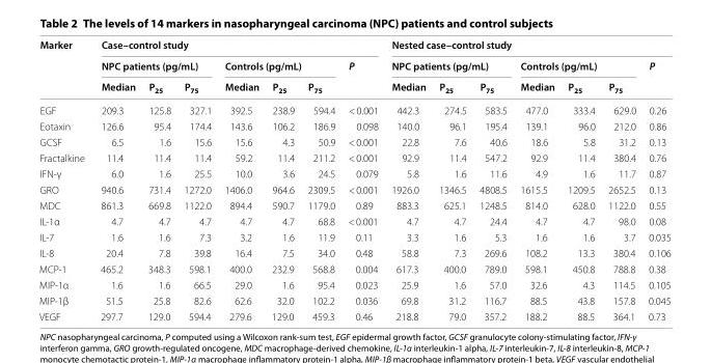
<table><thead><tr><td rowspan="3">Marker</td><td colspan="7">Case–control study</td><td colspan="7">Nested case–control study</td></tr><tr><td colspan="3">NPC patients (pg/mL)</td><td colspan="3">Controls (pg/mL)</td><td rowspan="2">P</td><td colspan="3">NPC patients (pg/mL)</td><td colspan="3">Controls (pg/mL)</td><td rowspan="2">P</td></tr><tr><td>Median</td><td>P<sub>25</sub></td><td>P<sub>75</sub></td><td>Median</td><td>P<sub>25</sub></td><td>P<sub>75</sub></td><td>Median</td><td>P<sub>25</sub></td><td>P<sub>75</sub></td><td>Median</td><td>P<sub>25</sub></td><td>P<sub>75</sub></td></tr></thead><tbody><tr><td>EGF</td><td>209.3</td><td>125.8</td><td>327.1</td><td>392.5</td><td>238.9</td><td>594.4</td><td>&lt; 0.001</td><td>442.3</td><td>274.5</td><td>583.5</td><td>477.0</td><td>333.4</td><td>629.0</td><td>0.26</td></tr><tr><td>Eotaxin</td><td>126.6</td><td>95.4</td><td>174.4</td><td>143.6</td><td>106.2</td><td>186.9</td><td>0.098</td><td>140.0</td><td>96.1</td><td>195.4</td><td>139.1</td><td>96.0</td><td>212.0</td><td>0.86</td></tr><tr><td>GCSF</td><td>6.5</td><td>1.6</td><td>15.6</td><td>15.6</td><td>4.3</td><td>50.9</td><td>&lt; 0.001</td><td>22.8</td><td>7.6</td><td>40.6</td><td>18.6</td><td>5.8</td><td>31.2</td><td>0.13</td></tr><tr><td>Fractalkine</td><td>11.4</td><td>11.4</td><td>11.4</td><td>59.2</td><td>11.4</td><td>211.2</td><td>&lt; 0.001</td><td>92.9</td><td>11.4</td><td>547.2</td><td>92.9</td><td>11.4</td><td>380.4</td><td>0.76</td></tr><tr><td>IFN‑γ</td><td>6.0</td><td>1.6</td><td>25.5</td><td>10.0</td><td>3.6</td><td>24.5</td><td>0.079</td><td>5.8</td><td>1.6</td><td>11.6</td><td>4.9</td><td>1.6</td><td>11.7</td><td>0.87</td></tr><tr><td>GRO</td><td>940.6</td><td>731.4</td><td>1272.0</td><td>1406.0</td><td>964.6</td><td>2309.5</td><td>&lt; 0.001</td><td>1926.0</td><td>1346.5</td><td>4808.5</td><td>1615.5</td><td>1209.5</td><td>2652.5</td><td>0.13</td></tr><tr><td>MDC</td><td>861.3</td><td>669.8</td><td>1122.0</td><td>894.4</td><td>590.7</td><td>1179.0</td><td>0.89</td><td>883.3</td><td>625.1</td><td>1248.5</td><td>814.0</td><td>628.0</td><td>1122.0</td><td>0.55</td></tr><tr><td>IL‑1α</td><td>4.7</td><td>4.7</td><td>4.7</td><td>4.7</td><td>4.7</td><td>68.8</td><td>&lt; 0.001</td><td>4.7</td><td>4.7</td><td>24.4</td><td>4.7</td><td>4.7</td><td>98.0</td><td>0.08</td></tr><tr><td>IL‑7</td><td>1.6</td><td>1.6</td><td>7.3</td><td>3.2</td><td>1.6</td><td>11.9</td><td>0.11</td><td>3.3</td><td>1.6</td><td>5.3</td><td>1.6</td><td>1.6</td><td>3.7</td><td>0.035</td></tr><tr><td>IL‑8</td><td>20.4</td><td>7.8</td><td>39.8</td><td>16.4</td><td>7.5</td><td>34.0</td><td>0.48</td><td>58.8</td><td>7.3</td><td>269.6</td><td>108.2</td><td>13.3</td><td>380.4</td><td>0.106</td></tr><tr><td>MCP‑1</td><td>465.2</td><td>348.3</td><td>598.1</td><td>400.0</td><td>232.9</td><td>568.8</td><td>0.004</td><td>617.3</td><td>400.0</td><td>789.0</td><td>598.1</td><td>450.8</td><td>788.8</td><td>0.38</td></tr><tr><td>MIP‑1α</td><td>1.6</td><td>1.6</td><td>66.5</td><td>29.0</td><td>1.6</td><td>95.4</td><td>0.023</td><td>25.9</td><td>1.6</td><td>57.0</td><td>32.6</td><td>4.3</td><td>114.5</td><td>0.105</td></tr><tr><td>MIP‑1β</td><td>51.5</td><td>25.8</td><td>82.6</td><td>62.6</td><td>32.0</td><td>102.2</td><td>0.036</td><td>69.8</td><td>31.2</td><td>116.7</td><td>88.5</td><td>43.8</td><td>157.8</td><td>0.045</td></tr><tr><td>VEGF</td><td>297.7</td><td>129.0</td><td>594.4</td><td>279.6</td><td>129.0</td><td>459.3</td><td>0.46</td><td>218.8</td><td>79.0</td><td>357.2</td><td>188.2</td><td>88.5</td><td>364.1</td><td>0.73</td></tr></tbody></table>